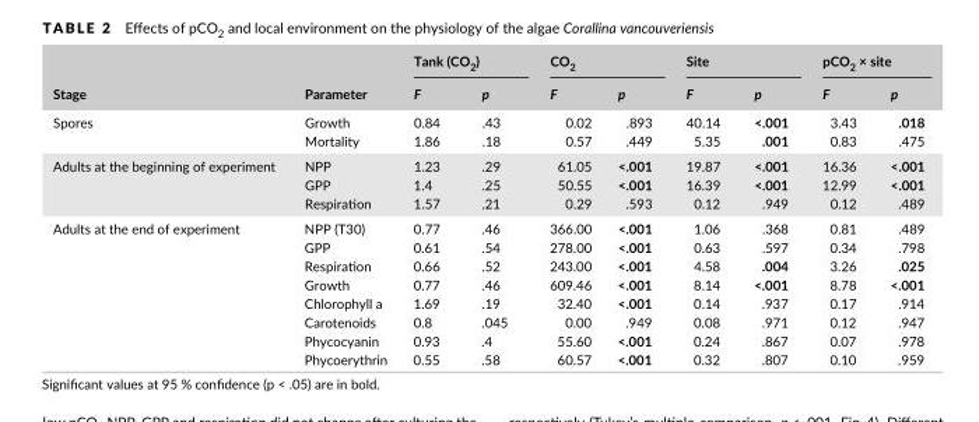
<table><thead><tr><td rowspan="2">Stage</td><td rowspan="2">Parameter</td><td colspan="2">Tank (CO<sub>2</sub>)</td><td colspan="2">CO<sub>2</sub></td><td colspan="2">Site</td><td colspan="2">pCO<sub>2</sub> × site</td></tr><tr><td>F</td><td>p</td><td>F</td><td>p</td><td>F</td><td>p</td><td>F</td><td>p</td></tr></thead><tbody><tr><td rowspan="2">Spores</td><td>Growth</td><td>0.84</td><td>.43</td><td>0.02</td><td>.893</td><td>40.14</td><td>&lt;.001</td><td>3.43</td><td>.018</td></tr><tr><td>Mortality</td><td>1.86</td><td>.18</td><td>0.57</td><td>.449</td><td>5.35</td><td>.001</td><td>0.83</td><td>.475</td></tr><tr><td rowspan="3">Adults at the beginning of experiment</td><td>NPP</td><td>1.23</td><td>.29</td><td>61.05</td><td>&lt;.001</td><td>19.87</td><td>&lt;.001</td><td>16.36</td><td>&lt;.001</td></tr><tr><td>GPP</td><td>1.4</td><td>.25</td><td>50.55</td><td>&lt;.001</td><td>16.39</td><td>&lt;.001</td><td>12.99</td><td>&lt;.001</td></tr><tr><td>Respiration</td><td>1.57</td><td>.21</td><td>0.29</td><td>.593</td><td>0.12</td><td>.949</td><td>0.12</td><td>.489</td></tr><tr><td rowspan="8">Adults at the end of experiment</td><td>NPP (T30)</td><td>0.77</td><td>.46</td><td>366.00</td><td>&lt;.001</td><td>1.06</td><td>.368</td><td>0.81</td><td>.489</td></tr><tr><td>GPP</td><td>0.61</td><td>.54</td><td>278.00</td><td>&lt;.001</td><td>0.63</td><td>.597</td><td>0.34</td><td>.798</td></tr><tr><td>Respiration</td><td>0.66</td><td>.52</td><td>243.00</td><td>&lt;.001</td><td>4.58</td><td>.004</td><td>3.26</td><td>.025</td></tr><tr><td>Growth</td><td>0.77</td><td>.46</td><td>609.46</td><td>&lt;.001</td><td>8.14</td><td>&lt;.001</td><td>8.78</td><td>&lt;.001</td></tr><tr><td>Chlorophyll a</td><td>1.69</td><td>.19</td><td>32.40</td><td>&lt;.001</td><td>0.14</td><td>.937</td><td>0.17</td><td>.914</td></tr><tr><td>Carotenoids</td><td>0.8</td><td>.045</td><td>0.00</td><td>.949</td><td>0.08</td><td>.971</td><td>0.12</td><td>.947</td></tr><tr><td>Phycocyanin</td><td>0.93</td><td>.4</td><td>55.60</td><td>&lt;.001</td><td>0.24</td><td>.867</td><td>0.07</td><td>.978</td></tr><tr><td>Phycoerythrin</td><td>0.55</td><td>.58</td><td>60.57</td><td>&lt;.001</td><td>0.32</td><td>.807</td><td>0.10</td><td>.959</td></tr></tbody></table>